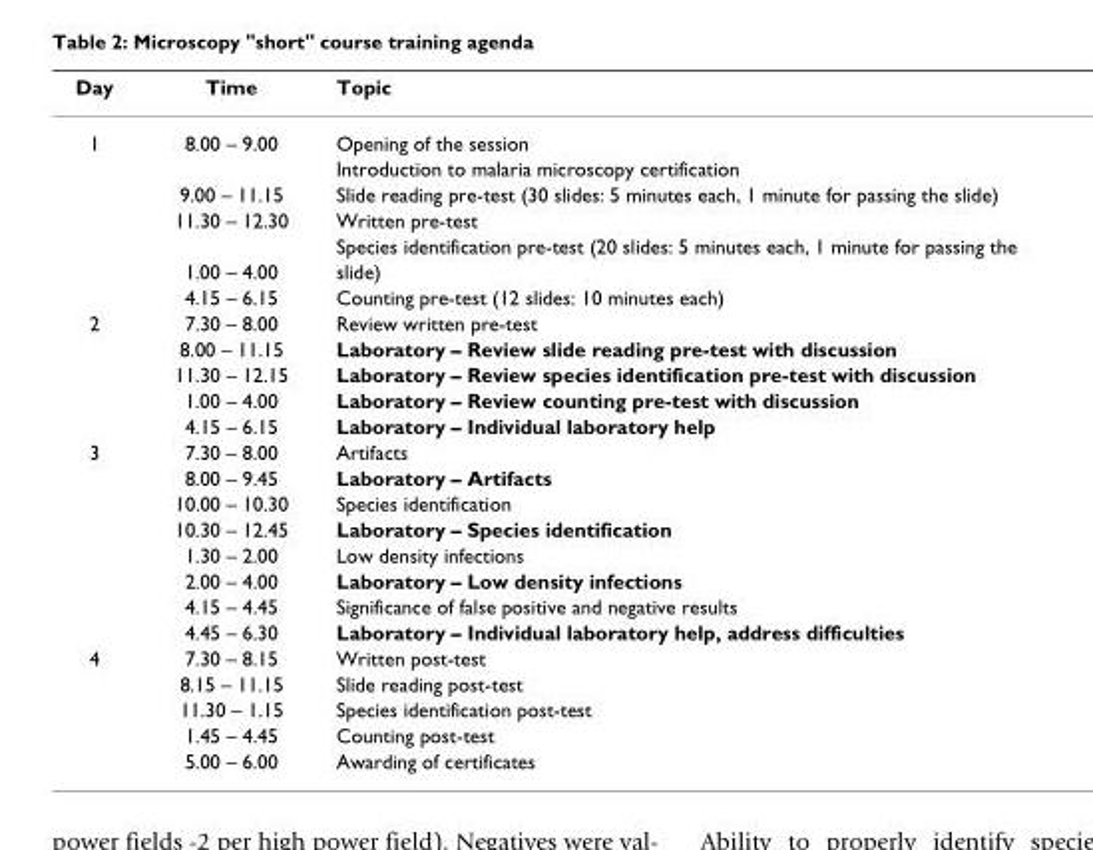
<table><thead><tr><td>Day</td><td>Time</td><td>Topic</td></tr></thead><tbody><tr><td rowspan="7">1</td><td>8.00 – 9.00</td><td>Opening of the session</td></tr><tr><td></td><td>Introduction to malaria microscopy certification</td></tr><tr><td>9.00 – 11.15</td><td>Slide reading pre-test (30 slides: 5 minutes each, 1 minute for passing the slide)</td></tr><tr><td>11.30 – 12.30</td><td>Written pre-test</td></tr><tr><td></td><td>Species identification pre-test (20 slides: 5 minutes each, 1 minute for passing the</td></tr><tr><td>1.00 – 4.00</td><td>slide)</td></tr><tr><td>4.15 – 6.15</td><td>Counting pre-test (12 slides: 10 minutes each)</td></tr><tr><td rowspan="5">2</td><td>7.30 – 8.00</td><td>Review written pre-test</td></tr><tr><td>8.00 – 11.15</td><td>Laboratory – Review slide reading pre-test with discussion</td></tr><tr><td>11.30 – 12.15</td><td>Laboratory – Review species identification pre-test with discussion</td></tr><tr><td>1.00 – 4.00</td><td>Laboratory – Review counting pre-test with discussion</td></tr><tr><td>4.15 – 6.15</td><td>Laboratory – Individual laboratory help</td></tr><tr><td rowspan="8">3</td><td>7.30 – 8.00</td><td>Artifacts</td></tr><tr><td>8.00 – 9.45</td><td>Laboratory – Artifacts</td></tr><tr><td>10.00 – 10.30</td><td>Species identification</td></tr><tr><td>10.30 – 12.45</td><td>Laboratory – Species identification</td></tr><tr><td>1.30 – 2.00</td><td>Low density infections</td></tr><tr><td>2.00 – 4.00</td><td>Laboratory – Low density infections</td></tr><tr><td>4.15 – 4.45</td><td>Significance of false positive and negative results</td></tr><tr><td>4.45 – 6.30</td><td>Laboratory – Individual laboratory help, address difficulties</td></tr><tr><td rowspan="5">4</td><td>7.30 – 8.15</td><td>Written post-test</td></tr><tr><td>8.15 – 11.15</td><td>Slide reading post-test</td></tr><tr><td>11.30 – 1.15</td><td>Species identification post-test</td></tr><tr><td>1.45 – 4.45</td><td>Counting post-test</td></tr><tr><td>5.00 – 6.00</td><td>Awarding of certificates</td></tr></tbody></table>